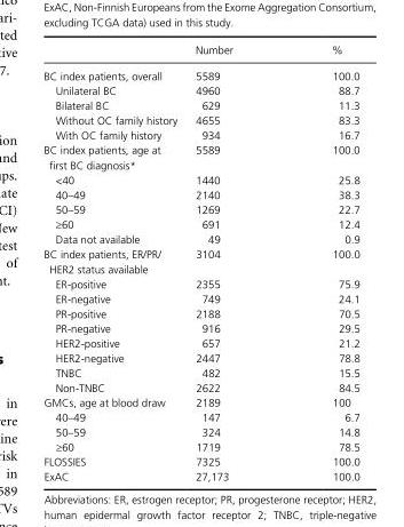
<table><thead><tr><td></td><td>Number</td><td>%</td></tr></thead><tbody><tr><td>BC index patients, overall</td><td>5589</td><td>100.0</td></tr><tr><td>Unilateral BC</td><td>4960</td><td>88.7</td></tr><tr><td>Bilateral BC</td><td>629</td><td>11.3</td></tr><tr><td>Without OC family history</td><td>4655</td><td>83.3</td></tr><tr><td>With OC family history</td><td>934</td><td>16.7</td></tr><tr><td>BC index patients, age at first BC diagnosis*</td><td>5589</td><td>100.0</td></tr><tr><td>&lt;40</td><td>1440</td><td>25.8</td></tr><tr><td>40–49</td><td>2140</td><td>38.3</td></tr><tr><td>50–59</td><td>1269</td><td>22.7</td></tr><tr><td>≥60</td><td>691</td><td>12.4</td></tr><tr><td>Data not available</td><td>49</td><td>0.9</td></tr><tr><td>BC index patients, ER/PR/ HER2 status available</td><td>3104</td><td>100.0</td></tr><tr><td>ER- positive</td><td>2355</td><td>75.9</td></tr><tr><td>ER- negative</td><td>749</td><td>24.1</td></tr><tr><td>PR- positive</td><td>2188</td><td>70.5</td></tr><tr><td>PR- negative</td><td>916</td><td>29.5</td></tr><tr><td>HER2- positive</td><td>657</td><td>21.2</td></tr><tr><td>HER2- negative</td><td>2447</td><td>78.8</td></tr><tr><td>TNBC</td><td>482</td><td>15.5</td></tr><tr><td>Non- TNBC</td><td>2622</td><td>84.5</td></tr><tr><td>GMCs, age at blood draw</td><td>2189</td><td>100</td></tr><tr><td>40–49</td><td>147</td><td>6.7</td></tr><tr><td>50–59</td><td>324</td><td>14.8</td></tr><tr><td>≥60</td><td>1719</td><td>78.5</td></tr><tr><td>FLOSSIES</td><td>7325</td><td>100.0</td></tr><tr><td>ExAC</td><td>27,173</td><td>100.0</td></tr></tbody></table>